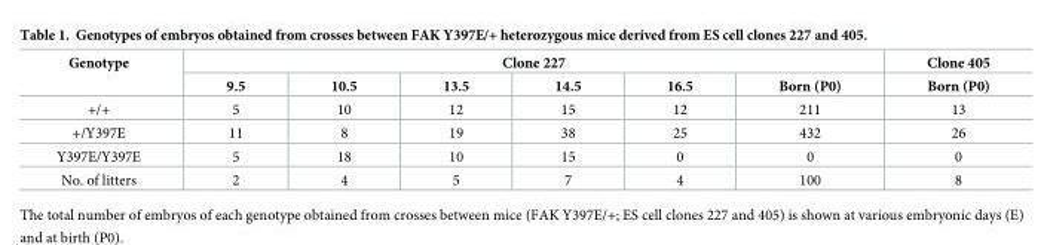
<table><thead><tr><td rowspan="2">Genotype</td><td colspan="6">Clone 227</td><td rowspan="2">Clone 405 Born (P0)</td></tr><tr><td>9.5</td><td>10.5</td><td>13.5</td><td>14.5</td><td>16.5</td><td>Born (P0)</td></tr></thead><tbody><tr><td>+/+</td><td>5</td><td>10</td><td>12</td><td>15</td><td>12</td><td>211</td><td>13</td></tr><tr><td>+/Y397E</td><td>11</td><td>8</td><td>19</td><td>38</td><td>25</td><td>432</td><td>26</td></tr><tr><td>Y397E/Y397E</td><td>5</td><td>18</td><td>10</td><td>15</td><td>0</td><td>0</td><td>0</td></tr><tr><td>No. of litters</td><td>2</td><td>4</td><td>5</td><td>7</td><td>4</td><td>100</td><td>8</td></tr></tbody></table>